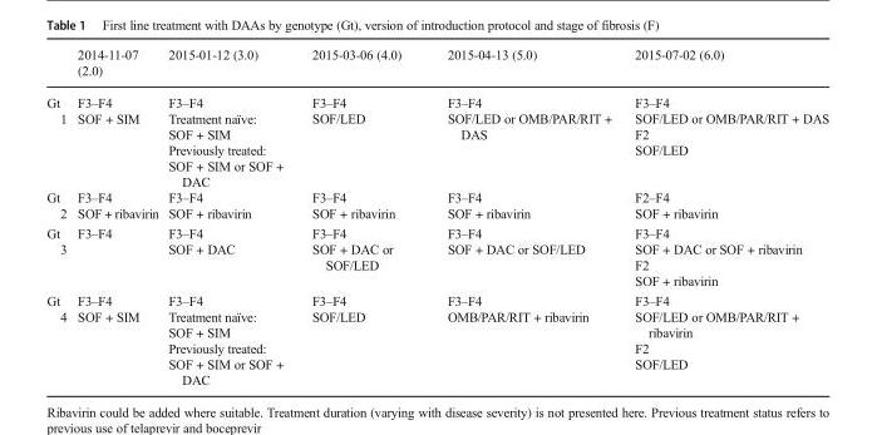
<table><thead><tr><td></td><td>2014-11-07 (2.0)</td><td>2015-01-12 (3.0)</td><td>2015-03-06 (4.0)</td><td>2015-04-13 (5.0)</td><td>2015-07-02 (6.0)</td></tr></thead><tbody><tr><td>Gt 1</td><td>F3–F4 SOF + SIM</td><td>F3–F4 Treatment naïve: SOF + SIM Previously treated: SOF + SIM or SOF + DAC</td><td>F3–F4 SOF/LED</td><td>F3–F4 SOF/LED or OMB/PAR/RIT + DAS</td><td>F3–F4 SOF/LED or OMB/PAR/RIT + DAS F2 SOF/LED</td></tr><tr><td>Gt 2</td><td>F3–F4 SOF + ribavirin</td><td>F3–F4 SOF + ribavirin</td><td>F3–F4 SOF + ribavirin</td><td>F3–F4 SOF + ribavirin</td><td>F2–F4 SOF + ribavirin</td></tr><tr><td>Gt 3</td><td>F3–F4</td><td>F3–F4 SOF + DAC</td><td>F3–F4 SOF + DAC or SOF/LED</td><td>F3–F4 SOF + DAC or SOF/LED</td><td>F3–F4 SOF + DAC or SOF + ribavirin F2 SOF + ribavirin</td></tr><tr><td>Gt 4</td><td>F3–F4 SOF + SIM</td><td>F3–F4 Treatment naïve: SOF + SIM Previously treated: SOF + SIM or SOF + DAC</td><td>F3–F4 SOF/LED</td><td>F3–F4 OMB/PAR/RIT + ribavirin</td><td>F3–F4 SOF/LED or OMB/PAR/RIT + ribavirin F2 SOF/LED</td></tr></tbody></table>